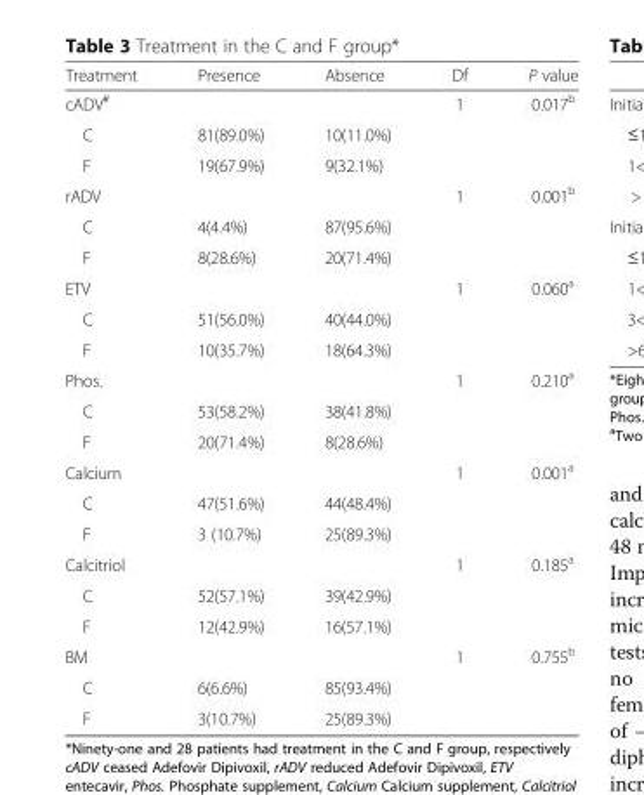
<table><thead><tr><td>Treatment</td><td>Presence</td><td>Absence</td><td>Df</td><td>P value</td></tr></thead><tbody><tr><td colspan="3">cADV<sup>#</sup></td><td rowspan="3">1</td><td rowspan="3">0.017<sup>b</sup></td></tr><tr><td>C</td><td>81(89.0%)</td><td>10(11.0%)</td></tr><tr><td>F</td><td>19(67.9%)</td><td>9(32.1%)</td></tr><tr><td colspan="3">rADV</td><td rowspan="3">1</td><td rowspan="3">0.001<sup>b</sup></td></tr><tr><td>C</td><td>4(4.4%)</td><td>87(95.6%)</td></tr><tr><td>F</td><td>8(28.6%)</td><td>20(71.4%)</td></tr><tr><td colspan="3">ETV</td><td rowspan="3">1</td><td rowspan="3">0.060<sup>a</sup></td></tr><tr><td>C</td><td>51(56.0%)</td><td>40(44.0%)</td></tr><tr><td>F</td><td>10(35.7%)</td><td>18(64.3%)</td></tr><tr><td colspan="3">Phos.</td><td rowspan="3">1</td><td rowspan="3">0.210<sup>a</sup></td></tr><tr><td>C</td><td>53(58.2%)</td><td>38(41.8%)</td></tr><tr><td>F</td><td>20(71.4%)</td><td>8(28.6%)</td></tr><tr><td colspan="3">Calcium</td><td rowspan="3">1</td><td rowspan="3">0.001<sup>a</sup></td></tr><tr><td>C</td><td>47(51.6%)</td><td>44(48.4%)</td></tr><tr><td>F</td><td>3 (10.7%)</td><td>25(89.3%)</td></tr><tr><td colspan="3">Calcitriol</td><td rowspan="3">1</td><td rowspan="3">0.185<sup>a</sup></td></tr><tr><td>C</td><td>52(57.1%)</td><td>39(42.9%)</td></tr><tr><td>F</td><td>12(42.9%)</td><td>16(57.1%)</td></tr><tr><td colspan="3">BM</td><td rowspan="3">1</td><td rowspan="3">0.755<sup>b</sup></td></tr><tr><td>C</td><td>6(6.6%)</td><td>85(93.4%)</td></tr><tr><td>F</td><td>3(10.7%)</td><td>25(89.3%)</td></tr></tbody></table>